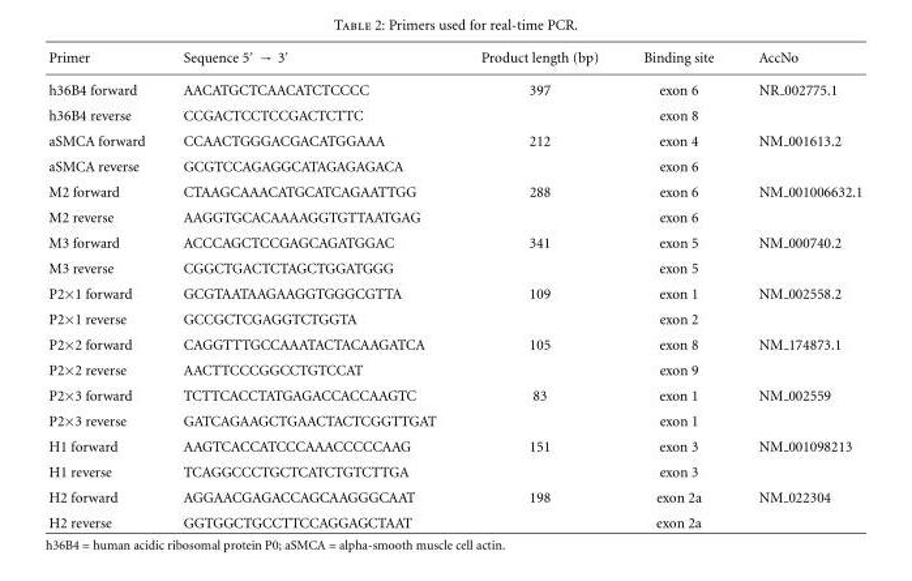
<table><thead><tr><td>Primer</td><td>Sequence 5′ → 3′</td><td>Product length (bp)</td><td>Binding site</td><td>AccNo</td></tr></thead><tbody><tr><td>h36B4 forward</td><td>AACATGCTCAACATCTCCCC</td><td>397</td><td>exon 6</td><td>NR 002775.1</td></tr><tr><td>h36B4 reverse</td><td>CCGACTCCTCCGACTCTTC</td><td></td><td>exon 8</td><td></td></tr><tr><td>aSMCA forward</td><td>CCAACTGGGACGACATGGAAA</td><td>212</td><td>exon 4</td><td>NM 001613.2</td></tr><tr><td>aSMCA reverse</td><td>GCGTCCAGAGGCATAGAGAGACA</td><td></td><td>exon 6</td><td></td></tr><tr><td>M2 forward</td><td>CTAAGCAAACATGCATCAGAATTGG</td><td>288</td><td>exon 6</td><td>NM 001006632.1</td></tr><tr><td>M2 reverse</td><td>AAGGTGCACAAAAGGTGTTAATGAG</td><td></td><td>exon 6</td><td></td></tr><tr><td>M3 forward</td><td>ACCCAGCTCCGAGCAGATGGAC</td><td>341</td><td>exon 5</td><td>NM 000740.2</td></tr><tr><td>M3 reverse</td><td>CGGCTGACTCTAGCTGGATGGG</td><td></td><td>exon 5</td><td></td></tr><tr><td>P2×1 forward</td><td>GCGTAATAAGAAGGTGGGCGTTA</td><td>109</td><td>exon 1</td><td>NM 002558.2</td></tr><tr><td>P2×1 reverse</td><td>GCCGCTCGAGGTCTGGTA</td><td></td><td>exon 2</td><td></td></tr><tr><td>P2×2 forward</td><td>CAGGTTTGCCAAATACTACAAGATCA</td><td>105</td><td>exon 8</td><td>NM 174873.1</td></tr><tr><td>P2×2 reverse</td><td>AACTTCCCGGCCTGTCCAT</td><td></td><td>exon 9</td><td></td></tr><tr><td>P2×3 forward</td><td>TCTTCACCTATGAGACCACCAAGTC</td><td>83</td><td>exon 1</td><td>NM 002559</td></tr><tr><td>P2×3 reverse</td><td>GATCAGAAGCTGAACTACTCGGTTGAT</td><td></td><td>exon 1</td><td></td></tr><tr><td>H1 forward</td><td>AAGTCACCATCCCAAACCCCCAAG</td><td>151</td><td>exon 3</td><td>NM 001098213</td></tr><tr><td>H1 reverse</td><td>TCAGGCCCTGCTCATCTGTCTTGA</td><td></td><td>exon 3</td><td></td></tr><tr><td>H2 forward</td><td>AGGAACGAGACCAGCAAGGGCAAT</td><td>198</td><td>exon 2a</td><td>NM 022304</td></tr><tr><td>H2 reverse</td><td>GGTGGCTGCCTTCCAGGAGCTAAT</td><td></td><td>exon 2a</td><td></td></tr></tbody></table>